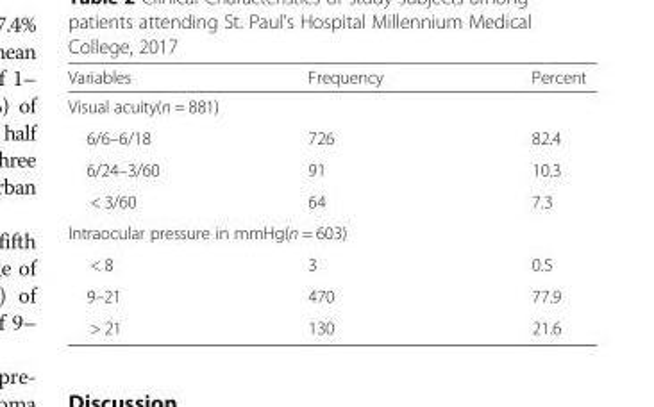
<table><thead><tr><td>Variables</td><td>Frequency</td><td>Percent</td></tr></thead><tbody><tr><td colspan="3">Visual acuity(n = 881)</td></tr><tr><td>6/6–6/18</td><td>726</td><td>82.4</td></tr><tr><td>6/24–3/60</td><td>91</td><td>10.3</td></tr><tr><td>&lt; 3/60</td><td>64</td><td>7.3</td></tr><tr><td colspan="3">Intraocular pressure in mmHg(n = 603)</td></tr><tr><td>&lt; 8</td><td>3</td><td>0.5</td></tr><tr><td>9–21</td><td>470</td><td>77.9</td></tr><tr><td>&gt; 21</td><td>130</td><td>21.6</td></tr></tbody></table>